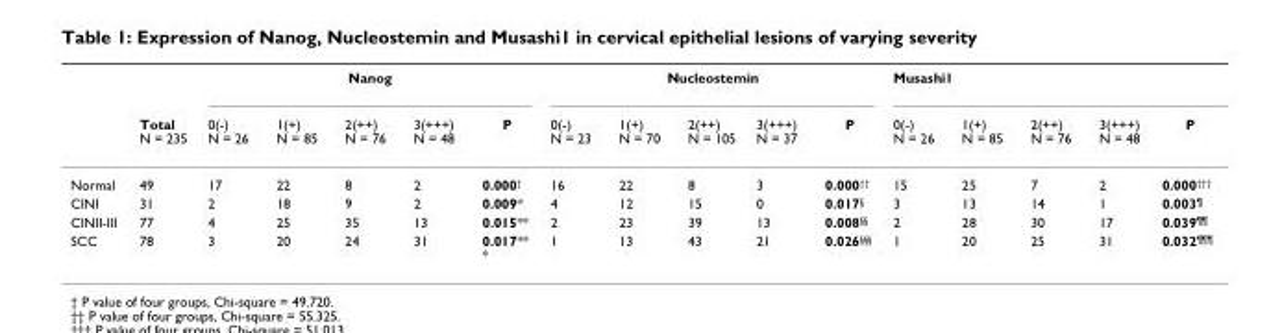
<table><thead><tr><td rowspan="2"></td><td rowspan="2">Total N = 235</td><td colspan="5">Nanog</td><td colspan="5">Nucleostemin</td><td colspan="5">Musashi1</td></tr><tr><td>0(-) N = 26</td><td>1(+) N = 85</td><td>2(++) N = 76</td><td>3(+++) N = 48</td><td>P</td><td>0(-) N = 23</td><td>1(+) N = 70</td><td>2(++) N = 105</td><td>3(+++) N = 37</td><td>P</td><td>0(-) N = 26</td><td>1(+) N = 85</td><td>2(++) N = 76</td><td>3(+++) N = 48</td><td>P</td></tr></thead><tbody><tr><td>Normal</td><td>49</td><td>17</td><td>22</td><td>8</td><td>2</td><td>0.000<sup>†</sup></td><td>16</td><td>22</td><td>8</td><td>3</td><td>0.000<sup>††</sup></td><td>15</td><td>25</td><td>7</td><td>2</td><td>0.000<sup>†††</sup></td></tr><tr><td>CINI</td><td>31</td><td>2</td><td>18</td><td>9</td><td>2</td><td>0.009*</td><td>4</td><td>12</td><td>15</td><td>0</td><td>0.017<sup>§</sup></td><td>3</td><td>13</td><td>14</td><td>1</td><td>0.003<sup>¶</sup></td></tr><tr><td>CINII-III</td><td>77</td><td>4</td><td>25</td><td>35</td><td>13</td><td>0.015**</td><td>2</td><td>23</td><td>39</td><td>13</td><td>0.008<sup>§§</sup></td><td>2</td><td>28</td><td>30</td><td>17</td><td>0.039<sup>¶¶</sup></td></tr><tr><td>SCC</td><td>78</td><td>3</td><td>20</td><td>24</td><td>31</td><td>0.017** *</td><td>1</td><td>13</td><td>43</td><td>21</td><td>0.026<sup>§§§</sup></td><td>1</td><td>20</td><td>25</td><td>31</td><td>0.032<sup>¶¶¶</sup></td></tr></tbody></table>